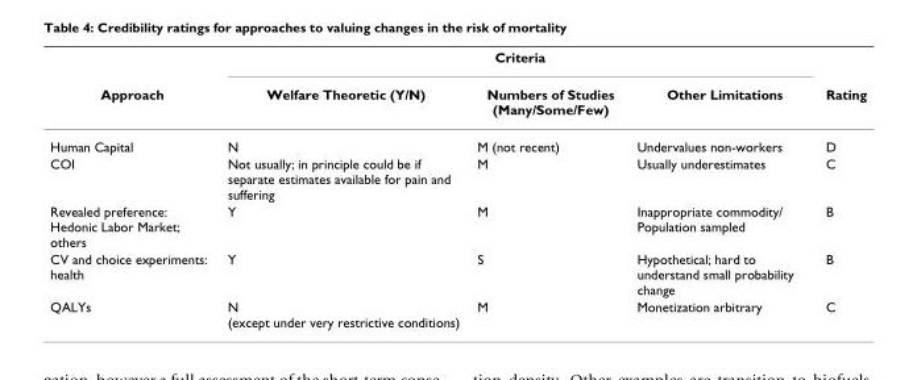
<table><thead><tr><td rowspan="2">Approach</td><td colspan="3">Criteria</td><td rowspan="2">Rating</td></tr><tr><td>Welfare Theoretic (Y/N)</td><td>Numbers of Studies (Many/Some/Few)</td><td>Other Limitations</td></tr></thead><tbody><tr><td>Human Capital</td><td>N</td><td>M (not recent)</td><td>Undervalues non-workers</td><td>D</td></tr><tr><td>COI</td><td>Not usually; in principle could be if separate estimates available for pain and suffering</td><td>M</td><td>Usually underestimates</td><td>C</td></tr><tr><td>Revealed preference: Hedonic Labor Market; others</td><td>Y</td><td>M</td><td>Inappropriate commodity/ Population sampled</td><td>B</td></tr><tr><td>CV and choice experiments: health</td><td>Y</td><td>S</td><td>Hypothetical; hard to understand small probability change</td><td>B</td></tr><tr><td>QALYs</td><td>N (except under very restrictive conditions)</td><td>M</td><td>Monetization arbitrary</td><td>C</td></tr></tbody></table>